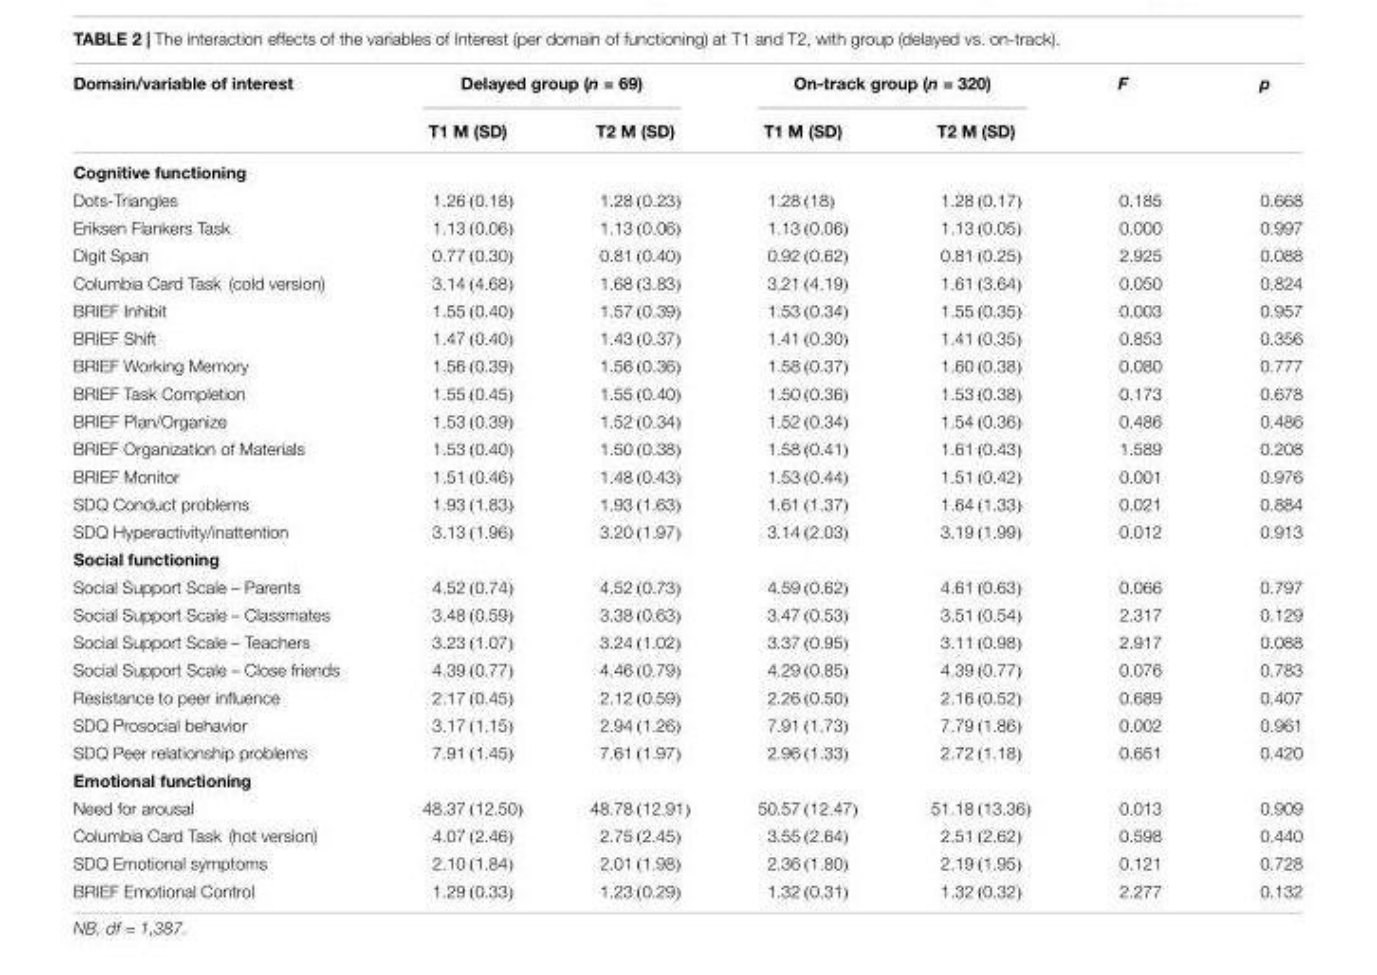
<table><thead><tr><td rowspan="2">Domain/variable of interest</td><td colspan="2">Delayed group (n = 69)</td><td colspan="2">On-track group (n = 320)</td><td rowspan="2">F</td><td rowspan="2">p</td></tr><tr><td>T1 M (SD)</td><td>T2 M (SD)</td><td>T1 M (SD)</td><td>T2 M (SD)</td></tr></thead><tbody><tr><td colspan="7">Cognitive functioning</td></tr><tr><td>Dots-Triangles</td><td>1.26 (0.18)</td><td>1.28 (0.23)</td><td>1.28 (18)</td><td>1.28 (0.17)</td><td>0.185</td><td>0.668</td></tr><tr><td>Eriksen Flankers Task</td><td>1.13 (0.06)</td><td>1.13 (0.06)</td><td>1.13 (0.06)</td><td>1.13 (0.05)</td><td>0.000</td><td>0.997</td></tr><tr><td>Digit Span</td><td>0.77 (0.30)</td><td>0.81 (0.40)</td><td>0.92 (0.62)</td><td>0.81 (0.25)</td><td>2.925</td><td>0.088</td></tr><tr><td>Columbia Card Task (cold version)</td><td>3.14 (4.68)</td><td>1.68 (3.83)</td><td>3.21 (4.19)</td><td>1.61 (3.64)</td><td>0.050</td><td>0.824</td></tr><tr><td>BRIEF Inhibit</td><td>1.55 (0.40)</td><td>1.57 (0.39)</td><td>1.53 (0.34)</td><td>1.55 (0.35)</td><td>0.003</td><td>0.957</td></tr><tr><td>BRIEF Shift</td><td>1.47 (0.40)</td><td>1.43 (0.37)</td><td>1.41 (0.30)</td><td>1.41 (0.35)</td><td>0.853</td><td>0.356</td></tr><tr><td>BRIEF Working Memory</td><td>1.56 (0.39)</td><td>1.56 (0.36)</td><td>1.58 (0.37)</td><td>1.60 (0.38)</td><td>0.080</td><td>0.777</td></tr><tr><td>BRIEF Task Completion</td><td>1.55 (0.45)</td><td>1.55 (0.40)</td><td>1.50 (0.36)</td><td>1.53 (0.38)</td><td>0.173</td><td>0.678</td></tr><tr><td>BRIEF Plan/Organize</td><td>1.53 (0.39)</td><td>1.52 (0.34)</td><td>1.52 (0.34)</td><td>1.54 (0.36)</td><td>0.486</td><td>0.486</td></tr><tr><td>BRIEF Organization of Materials</td><td>1.53 (0.40)</td><td>1.50 (0.38)</td><td>1.58 (0.41)</td><td>1.61 (0.43)</td><td>1.589</td><td>0.208</td></tr><tr><td>BRIEF Monitor</td><td>1.51 (0.46)</td><td>1.48 (0.43)</td><td>1.53 (0.44)</td><td>1.51 (0.42)</td><td>0.001</td><td>0.976</td></tr><tr><td>SDQ Conduct problems</td><td>1.93 (1.83)</td><td>1.93 (1.63)</td><td>1.61 (1.37)</td><td>1.64 (1.33)</td><td>0.021</td><td>0.884</td></tr><tr><td>SDQ Hyperactivity/inattention</td><td>3.13 (1.96)</td><td>3.20 (1.97)</td><td>3.14 (2.03)</td><td>3.19 (1.99)</td><td>0.012</td><td>0.913</td></tr><tr><td colspan="7">Social functioning</td></tr><tr><td>Social Support Scale – Parents</td><td>4.52 (0.74)</td><td>4.52 (0.73)</td><td>4.59 (0.62)</td><td>4.61 (0.63)</td><td>0.066</td><td>0.797</td></tr><tr><td>Social Support Scale – Classmates</td><td>3.48 (0.59)</td><td>3.38 (0.63)</td><td>3.47 (0.53)</td><td>3.51 (0.54)</td><td>2.317</td><td>0.129</td></tr><tr><td>Social Support Scale – Teachers</td><td>3.23 (1.07)</td><td>3.24 (1.02)</td><td>3.37 (0.95)</td><td>3.11 (0.98)</td><td>2.917</td><td>0.088</td></tr><tr><td>Social Support Scale – Close friends</td><td>4.39 (0.77)</td><td>4.46 (0.79)</td><td>4.29 (0.85)</td><td>4.39 (0.77)</td><td>0.076</td><td>0.783</td></tr><tr><td>Resistance to peer influence</td><td>2.17 (0.45)</td><td>2.12 (0.59)</td><td>2.26 (0.50)</td><td>2.16 (0.52)</td><td>0.689</td><td>0.407</td></tr><tr><td>SDQ Prosocial behavior</td><td>3.17 (1.15)</td><td>2.94 (1.26)</td><td>7.91 (1.73)</td><td>7.79 (1.86)</td><td>0.002</td><td>0.961</td></tr><tr><td>SDQ Peer relationship problems</td><td>7.91 (1.45)</td><td>7.61 (1.97)</td><td>2.96 (1.33)</td><td>2.72 (1.18)</td><td>0.651</td><td>0.420</td></tr><tr><td colspan="7">Emotional functioning</td></tr><tr><td>Need for arousal</td><td>48.37 (12.50)</td><td>48.78 (12.91)</td><td>50.57 (12.47)</td><td>51.18 (13.36)</td><td>0.013</td><td>0.909</td></tr><tr><td>Columbia Card Task (hot version)</td><td>4.07 (2.46)</td><td>2.75 (2.45)</td><td>3.55 (2.64)</td><td>2.51 (2.62)</td><td>0.598</td><td>0.440</td></tr><tr><td>SDQ Emotional symptoms</td><td>2.10 (1.84)</td><td>2.01 (1.98)</td><td>2.36 (1.80)</td><td>2.19 (1.95)</td><td>0.121</td><td>0.728</td></tr><tr><td>BRIEF Emotional Control</td><td>1.29 (0.33)</td><td>1.23 (0.29)</td><td>1.32 (0.31)</td><td>1.32 (0.32)</td><td>2.277</td><td>0.132</td></tr></tbody></table>